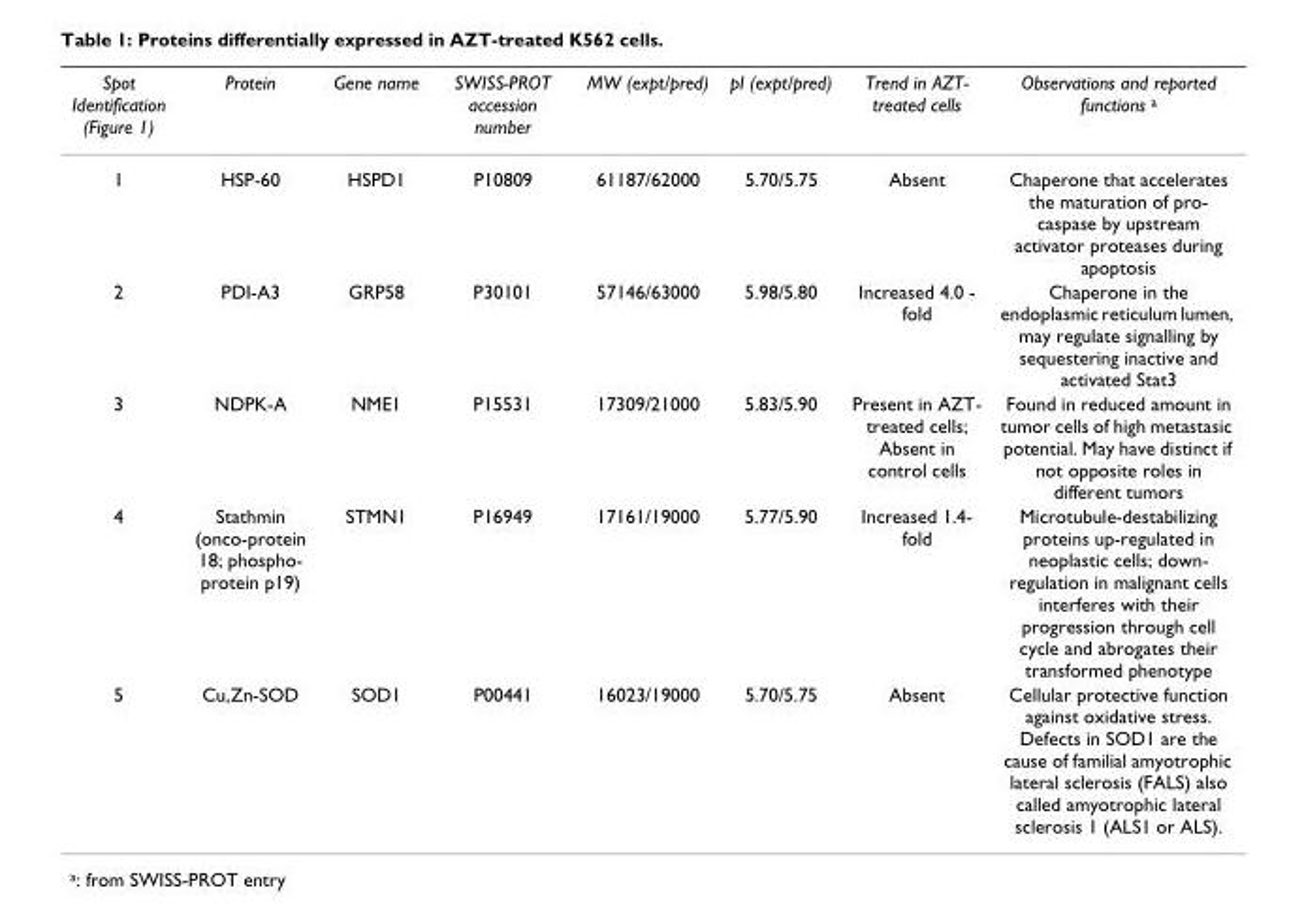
<table><thead><tr><td>Spot Identification (Figure 1)</td><td>Protein</td><td>Gene name</td><td>SWISS-PROT accession number</td><td>MW (expt/pred)</td><td>pI (expt/pred)</td><td>Trend in AZT- treated cells</td><td>Observations and reported functions <sup>a</sup></td></tr></thead><tbody><tr><td>1</td><td>HSP-60</td><td>HSPD1</td><td>P10809</td><td>61187/62000</td><td>5.70/5.75</td><td>Absent</td><td>Chaperone that accelerates the maturation of pro- caspase by upstream activator proteases during apoptosis</td></tr><tr><td>2</td><td>PDI-A3</td><td>GRP58</td><td>P30101</td><td>57146/63000</td><td>5.98/5.80</td><td>Increased 4.0 - fold</td><td>Chaperone in the endoplasmic reticulum lumen, may regulate signalling by sequestering inactive and activated Stat3</td></tr><tr><td>3</td><td>NDPK-A</td><td>NME1</td><td>P15531</td><td>17309/21000</td><td>5.83/5.90</td><td>Present in AZT- treated cells; Absent in control cells</td><td>Found in reduced amount in tumor cells of high metastasic potential. May have distinct if not opposite roles in different tumors</td></tr><tr><td>4</td><td>Stathmin (onco-protein 18; phospho- protein p19)</td><td>STMN1</td><td>P16949</td><td>17161/19000</td><td>5.77/5.90</td><td>Increased 1.4- fold</td><td>Microtubule-destabilizing proteins up-regulated in neoplastic cells; down- regulation in malignant cells interferes with their progression through cell cycle and abrogates their transformed phenotype</td></tr><tr><td>5</td><td>Cu,Zn-SOD</td><td>SOD1</td><td>P00441</td><td>16023/19000</td><td>5.70/5.75</td><td>Absent</td><td>Cellular protective function against oxidative stress. Defects in SOD1 are the cause of familial amyotrophic lateral sclerosis (FALS) also called amyotrophic lateral sclerosis 1 (ALS1 or ALS).</td></tr></tbody></table>